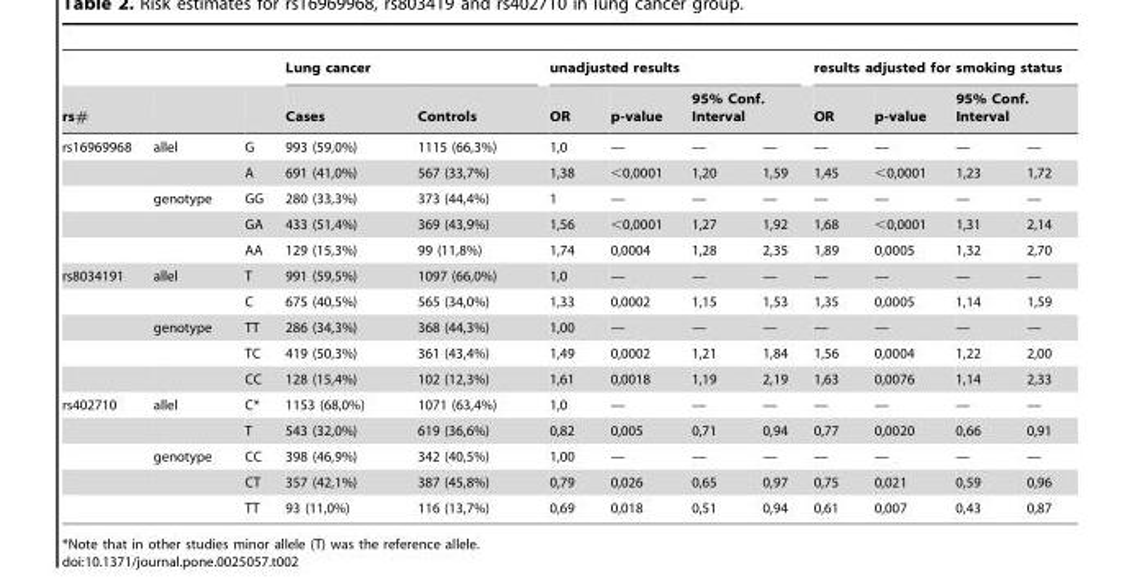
<table><thead><tr><td rowspan="3">rs# rs16969968</td><td rowspan="3">allel</td><td rowspan="3">G</td><td colspan="2">Lung cancer</td><td colspan="4">unadjusted results</td><td colspan="4">results adjusted for smoking status</td></tr><tr><td rowspan="2">Cases 993 (59,0%)</td><td rowspan="2">Controls 1115 (66,3%)</td><td rowspan="2">OR 1,0</td><td rowspan="2">p-value —</td><td colspan="2">95% Conf. Interval</td><td rowspan="2">OR —</td><td rowspan="2">p-value —</td><td colspan="2">95% Conf. Interval</td></tr><tr><td>—</td><td>—</td><td>—</td><td>—</td></tr></thead><tbody><tr><td></td><td></td><td>A</td><td>691 (41,0%)</td><td>567 (33,7%)</td><td>1,38</td><td>&lt;0,0001</td><td>1,20</td><td>1,59</td><td>1,45</td><td>&lt;0,0001</td><td>1,23</td><td>1,72</td></tr><tr><td></td><td>genotype</td><td>GG</td><td>280 (33,3%)</td><td>373 (44,4%)</td><td>1</td><td>—</td><td>—</td><td>—</td><td>—</td><td>—</td><td>—</td><td>—</td></tr><tr><td></td><td></td><td>GA</td><td>433 (51,4%)</td><td>369 (43,9%)</td><td>1,56</td><td>&lt;0,0001</td><td>1,27</td><td>1,92</td><td>1,68</td><td>&lt;0,0001</td><td>1,31</td><td>2,14</td></tr><tr><td></td><td></td><td>AA</td><td>129 (15,3%)</td><td>99 (11,8%)</td><td>1,74</td><td>0,0004</td><td>1,28</td><td>2,35</td><td>1,89</td><td>0,0005</td><td>1,32</td><td>2,70</td></tr><tr><td rowspan="5">rs8034191</td><td>allel</td><td>T</td><td>991 (59,5%)</td><td>1097 (66,0%)</td><td>1,0</td><td>—</td><td>—</td><td>—</td><td>—</td><td>—</td><td>—</td><td>—</td></tr><tr><td></td><td>C</td><td>675 (40,5%)</td><td>565 (34,0%)</td><td>1,33</td><td>0,0002</td><td>1,15</td><td>1,53</td><td>1,35</td><td>0,0005</td><td>1,14</td><td>1,59</td></tr><tr><td>genotype</td><td>TT</td><td>286 (34,3%)</td><td>368 (44,3%)</td><td>1,00</td><td>—</td><td>—</td><td>—</td><td>—</td><td>—</td><td>—</td><td>—</td></tr><tr><td></td><td>TC</td><td>419 (50,3%)</td><td>361 (43,4%)</td><td>1,49</td><td>0,0002</td><td>1,21</td><td>1,84</td><td>1,56</td><td>0,0004</td><td>1,22</td><td>2,00</td></tr><tr><td></td><td>CC</td><td>128 (15,4%)</td><td>102 (12,3%)</td><td>1,61</td><td>0,0018</td><td>1,19</td><td>2,19</td><td>1,63</td><td>0,0076</td><td>1,14</td><td>2,33</td></tr><tr><td rowspan="5">rs402710</td><td>allel</td><td>C*</td><td>1153 (68,0%)</td><td>1071 (63,4%)</td><td>1,0</td><td>—</td><td>—</td><td>—</td><td>—</td><td>—</td><td>—</td><td>—</td></tr><tr><td></td><td>T</td><td>543 (32,0%)</td><td>619 (36,6%)</td><td>0,82</td><td>0,005</td><td>0,71</td><td>0,94</td><td>0,77</td><td>0,0020</td><td>0,66</td><td>0,91</td></tr><tr><td>genotype</td><td>CC</td><td>398 (46,9%)</td><td>342 (40,5%)</td><td>1,00</td><td>—</td><td>—</td><td>—</td><td>—</td><td>—</td><td>—</td><td>—</td></tr><tr><td></td><td>CT</td><td>357 (42,1%)</td><td>387 (45,8%)</td><td>0,79</td><td>0,026</td><td>0,65</td><td>0,97</td><td>0,75</td><td>0,021</td><td>0,59</td><td>0,96</td></tr><tr><td></td><td>TT</td><td>93 (11,0%)</td><td>116 (13,7%)</td><td>0,69</td><td>0,018</td><td>0,51</td><td>0,94</td><td>0,61</td><td>0,007</td><td>0,43</td><td>0,87</td></tr></tbody></table>